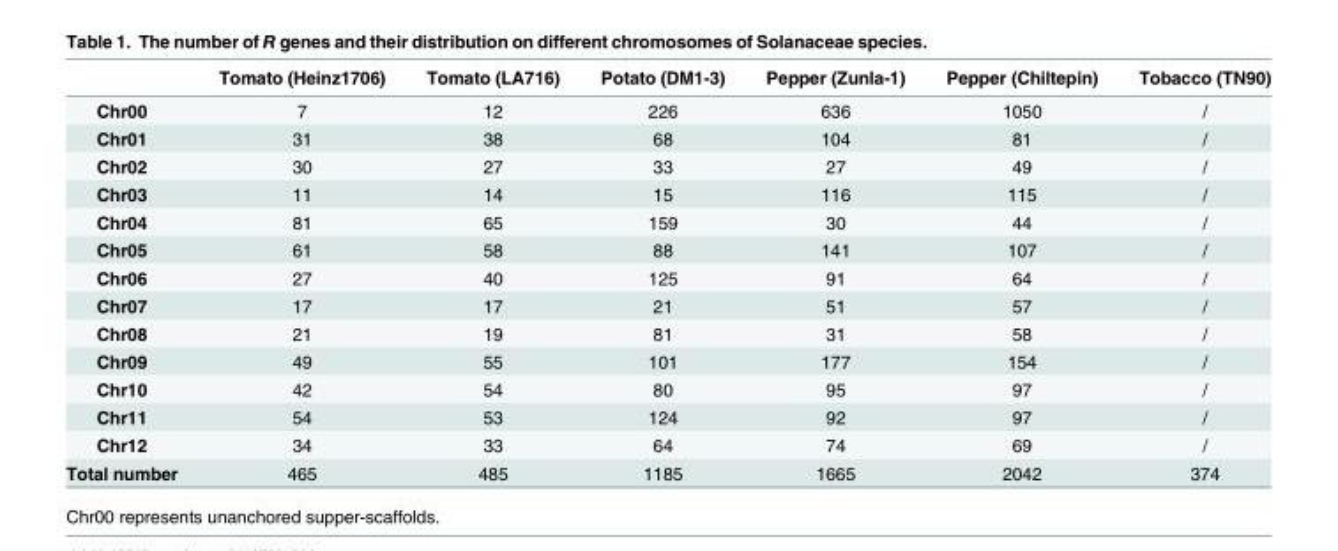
<table><thead><tr><td></td><td>Tomato (Heinz1706)</td><td>Tomato (LA716)</td><td>Potato (DM1-3)</td><td>Pepper (Zunla-1)</td><td>Pepper (Chiltepin)</td><td>Tobacco (TN90)</td></tr></thead><tbody><tr><td>Chr00</td><td>7</td><td>12</td><td>226</td><td>636</td><td>1050</td><td>/</td></tr><tr><td>Chr01</td><td>31</td><td>38</td><td>68</td><td>104</td><td>81</td><td>/</td></tr><tr><td>Chr02</td><td>30</td><td>27</td><td>33</td><td>27</td><td>49</td><td>/</td></tr><tr><td>Chr03</td><td>11</td><td>14</td><td>15</td><td>116</td><td>115</td><td>/</td></tr><tr><td>Chr04</td><td>81</td><td>65</td><td>159</td><td>30</td><td>44</td><td>/</td></tr><tr><td>Chr05</td><td>61</td><td>58</td><td>88</td><td>141</td><td>107</td><td>/</td></tr><tr><td>Chr06</td><td>27</td><td>40</td><td>125</td><td>91</td><td>64</td><td>/</td></tr><tr><td>Chr07</td><td>17</td><td>17</td><td>21</td><td>51</td><td>57</td><td>/</td></tr><tr><td>Chr08</td><td>21</td><td>19</td><td>81</td><td>31</td><td>58</td><td>/</td></tr><tr><td>Chr09</td><td>49</td><td>55</td><td>101</td><td>177</td><td>154</td><td>/</td></tr><tr><td>Chr10</td><td>42</td><td>54</td><td>80</td><td>95</td><td>97</td><td>/</td></tr><tr><td>Chr11</td><td>54</td><td>53</td><td>124</td><td>92</td><td>97</td><td>/</td></tr><tr><td>Chr12</td><td>34</td><td>33</td><td>64</td><td>74</td><td>69</td><td>/</td></tr><tr><td>Total number</td><td>465</td><td>485</td><td>1185</td><td>1665</td><td>2042</td><td>374</td></tr></tbody></table>